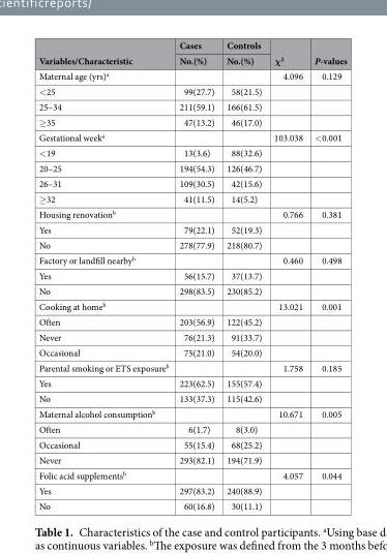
<table><thead><tr><td rowspan="2">Variables/Characteristic</td><td rowspan="2">Cases No.(%)</td><td rowspan="2">Controls No.(%)</td><td rowspan="2">χ<sup>2</sup></td><td rowspan="2">P-values</td></tr><tr></tr></thead><tbody><tr><td>Maternal age (yrs)<sup>a</sup></td><td></td><td></td><td>4.096</td><td>0.129</td></tr><tr><td>&lt;25</td><td>99(27.7)</td><td>58(21.5)</td><td></td><td></td></tr><tr><td>25–34</td><td>211(59.1)</td><td>166(61.5)</td><td></td><td></td></tr><tr><td>≥35</td><td>47(13.2)</td><td>46(17.0)</td><td></td><td></td></tr><tr><td>Gestational week<sup>a</sup></td><td></td><td></td><td>103.038</td><td>&lt;0.001</td></tr><tr><td>&lt;19</td><td>13(3.6)</td><td>88(32.6)</td><td></td><td></td></tr><tr><td>20–25</td><td>194(54.3)</td><td>126(46.7)</td><td></td><td></td></tr><tr><td>26–31</td><td>109(30.5)</td><td>42(15.6)</td><td></td><td></td></tr><tr><td>≥32</td><td>41(11.5)</td><td>14(5.2)</td><td></td><td></td></tr><tr><td>Housing renovation<sup>b</sup></td><td></td><td></td><td>0.766</td><td>0.381</td></tr><tr><td>Yes</td><td>79(22.1)</td><td>52(19.3)</td><td></td><td></td></tr><tr><td>No</td><td>278(77.9)</td><td>218(80.7)</td><td></td><td></td></tr><tr><td>Factory or landfill nearby<sup>b</sup></td><td></td><td></td><td>0.460</td><td>0.498</td></tr><tr><td>Yes</td><td>56(15.7)</td><td>37(13.7)</td><td></td><td></td></tr><tr><td>No</td><td>298(83.5)</td><td>230(85.2)</td><td></td><td></td></tr><tr><td>Cooking at home<sup>b</sup></td><td></td><td></td><td>13.021</td><td>0.001</td></tr><tr><td>Often</td><td>203(56.9)</td><td>122(45.2)</td><td></td><td></td></tr><tr><td>Never</td><td>76(21.3)</td><td>91(33.7)</td><td></td><td></td></tr><tr><td>Occasional</td><td>75(21.0)</td><td>54(20.0)</td><td></td><td></td></tr><tr><td>Parental smoking or ETS exposure<sup>b</sup></td><td></td><td></td><td>1.758</td><td>0.185</td></tr><tr><td>Yes</td><td>223(62.5)</td><td>155(57.4)</td><td></td><td></td></tr><tr><td>No</td><td>133(37.3)</td><td>115(42.6)</td><td></td><td></td></tr><tr><td>Maternal alcohol consumption<sup>b</sup></td><td></td><td></td><td>10.671</td><td>0.005</td></tr><tr><td>Often</td><td>6(1.7)</td><td>8(3.0)</td><td></td><td></td></tr><tr><td>Occasional</td><td>55(15.4)</td><td>68(25.2)</td><td></td><td></td></tr><tr><td>Never</td><td>293(82.1)</td><td>194(71.9)</td><td></td><td></td></tr><tr><td>Folic acid supplements<sup>b</sup></td><td></td><td></td><td>4.057</td><td>0.044</td></tr><tr><td>Yes</td><td>297(83.2)</td><td>240(88.9)</td><td></td><td></td></tr><tr><td>No</td><td>60(16.8)</td><td>30(11.1)</td><td></td><td></td></tr></tbody></table>